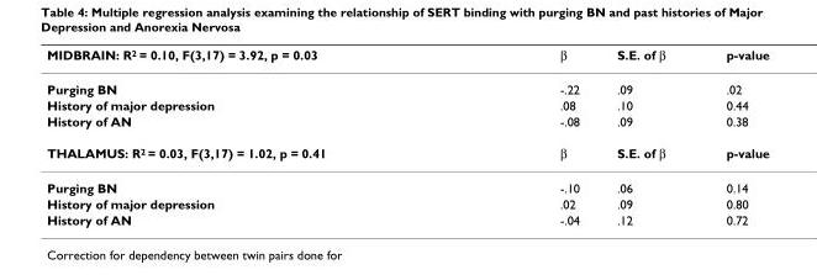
<table><thead><tr><td>MIDBRAIN: R<sup>2</sup> = 0.10, F(3,17) = 3.92, p = 0.03</td><td>β</td><td>S.E. of β</td><td>p-value</td></tr></thead><tbody><tr><td>Purging BN</td><td>-.22</td><td>.09</td><td>.02</td></tr><tr><td>History of major depression</td><td>.08</td><td>.10</td><td>0.44</td></tr><tr><td>History of AN</td><td>-.08</td><td>.09</td><td>0.38</td></tr><tr><td>THALAMUS: R<sup>2</sup> = 0.03, F(3,17) = 1.02, p = 0.41</td><td>β</td><td>S.E. of β</td><td>p-value</td></tr><tr><td>Purging BN</td><td>-.10</td><td>.06</td><td>0.14</td></tr><tr><td>History of major depression</td><td>.02</td><td>.09</td><td>0.80</td></tr><tr><td>History of AN</td><td>-.04</td><td>.12</td><td>0.72</td></tr></tbody></table>